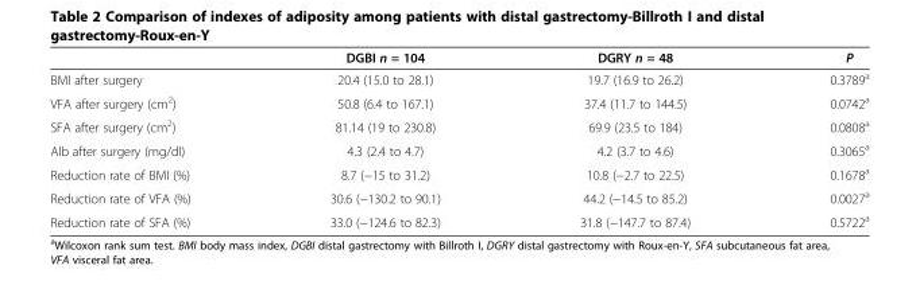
<table><thead><tr><td></td><td>DGBI n = 104</td><td>DGRY n = 48</td><td>P</td></tr></thead><tbody><tr><td>BMI after surgery</td><td>20.4 (15.0 to 28.1)</td><td>19.7 (16.9 to 26.2)</td><td>0.3789<sup>a</sup></td></tr><tr><td>VFA after surgery (cm<sup>2</sup>)</td><td>50.8 (6.4 to 167.1)</td><td>37.4 (11.7 to 144.5)</td><td>0.0742<sup>a</sup></td></tr><tr><td>SFA after surgery (cm<sup>2</sup>)</td><td>81.14 (19 to 230.8)</td><td>69.9 (23.5 to 184)</td><td>0.0808<sup>a</sup></td></tr><tr><td>Alb after surgery (mg/dl)</td><td>4.3 (2.4 to 4.7)</td><td>4.2 (3.7 to 4.6)</td><td>0.3065<sup>a</sup></td></tr><tr><td>Reduction rate of BMI (%)</td><td>8.7 (−15 to 31.2)</td><td>10.8 (−2.7 to 22.5)</td><td>0.1678<sup>a</sup></td></tr><tr><td>Reduction rate of VFA (%)</td><td>30.6 (−130.2 to 90.1)</td><td>44.2 (−14.5 to 85.2)</td><td>0.0027<sup>a</sup></td></tr><tr><td>Reduction rate of SFA (%)</td><td>33.0 (−124.6 to 82.3)</td><td>31.8 (−147.7 to 87.4)</td><td>0.5722<sup>a</sup></td></tr></tbody></table>